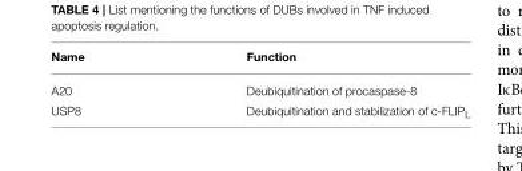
<table><thead><tr><td>Name</td><td>Function</td></tr></thead><tbody><tr><td>A20</td><td>Deubiquitination of procaspase-8</td></tr><tr><td>USP8</td><td>Deubiquitination and stabilization of c-FLIP<sub>L</sub></td></tr></tbody></table>